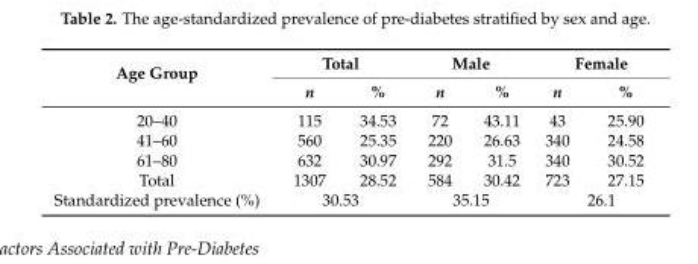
<table><thead><tr><td rowspan="2">Age Group</td><td colspan="2">Total</td><td colspan="2">Male</td><td colspan="2">Female</td></tr><tr><td>n</td><td>%</td><td>n</td><td>%</td><td>n</td><td>%</td></tr></thead><tbody><tr><td>20–40</td><td>115</td><td>34.53</td><td>72</td><td>43.11</td><td>43</td><td>25.90</td></tr><tr><td>41–60</td><td>560</td><td>25.35</td><td>220</td><td>26.63</td><td>340</td><td>24.58</td></tr><tr><td>61–80</td><td>632</td><td>30.97</td><td>292</td><td>31.5</td><td>340</td><td>30.52</td></tr><tr><td>Total</td><td>1307</td><td>28.52</td><td>584</td><td>30.42</td><td>723</td><td>27.15</td></tr><tr><td>Standardized prevalence (%)</td><td colspan="2">30.53</td><td colspan="2">35.15</td><td colspan="2">26.1</td></tr></tbody></table>